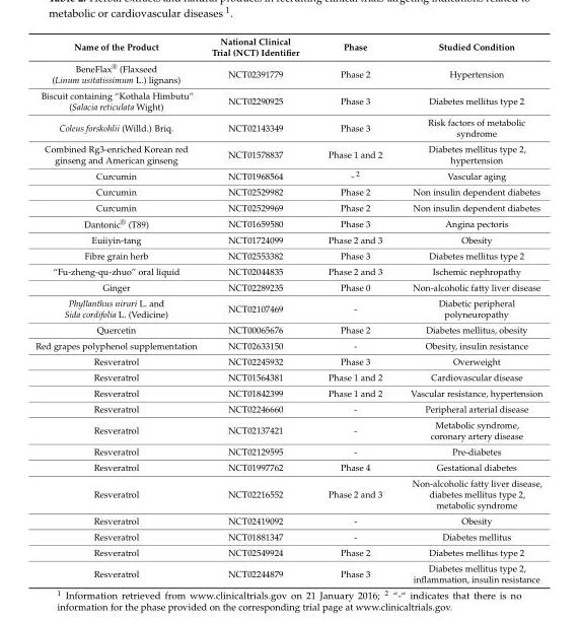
<table><thead><tr><td>Name of the Product</td><td>National Clinical Trial (NCT) Identifier</td><td>Phase</td><td>Studied Condition</td></tr></thead><tbody><tr><td>BeneFlax<sup>®</sup> (Flaxseed (Linum usitatissimum L.) lignans)</td><td>NCT02391779</td><td>Phase 2</td><td>Hypertension</td></tr><tr><td>Biscuit containing “Kothala Himbutu” (Salacia reticulata Wight)</td><td>NCT02290925</td><td>Phase 3</td><td>Diabetes mellitus type 2</td></tr><tr><td>Coleus forskohlii (Willd.) Briq.</td><td>NCT02143349</td><td>Phase 3</td><td>Risk factors of metabolic syndrome</td></tr><tr><td>Combined Rg3-enriched Korean red ginseng and American ginseng</td><td>NCT01578837</td><td>Phase 1 and 2</td><td>Diabetes mellitus type 2, hypertension</td></tr><tr><td>Curcumin</td><td>NCT01968564</td><td>- <sup>2</sup></td><td>Vascular aging</td></tr><tr><td>Curcumin</td><td>NCT02529982</td><td>Phase 2</td><td>Non insulin dependent diabetes</td></tr><tr><td>Curcumin</td><td>NCT02529969</td><td>Phase 2</td><td>Non insulin dependent diabetes</td></tr><tr><td>Dantonic<sup>®</sup> (T89)</td><td>NCT01659580</td><td>Phase 3</td><td>Angina pectoris</td></tr><tr><td>Euiiyin-tang</td><td>NCT01724099</td><td>Phase 2 and 3</td><td>Obesity</td></tr><tr><td>Fibre grain herb</td><td>NCT02553382</td><td>Phase 3</td><td>Diabetes mellitus type 2</td></tr><tr><td>“Fu-zheng-qu-zhuo” oral liquid</td><td>NCT02044835</td><td>Phase 2 and 3</td><td>Ischemic nephropathy</td></tr><tr><td>Ginger</td><td>NCT02289235</td><td>Phase 0</td><td>Non-alcoholic fatty liver disease</td></tr><tr><td>Phyllanthus niruri L. and Sida cordifolia L. (Vedicine)</td><td>NCT02107469</td><td>-</td><td>Diabetic peripheral polyneuropathy</td></tr><tr><td>Quercetin</td><td>NCT00065676</td><td>Phase 2</td><td>Diabetes mellitus, obesity</td></tr><tr><td>Red grapes polyphenol supplementation</td><td>NCT02633150</td><td>-</td><td>Obesity, insulin resistance</td></tr><tr><td>Resveratrol</td><td>NCT02245932</td><td>Phase 3</td><td>Overweight</td></tr><tr><td>Resveratrol</td><td>NCT01564381</td><td>Phase 1 and 2</td><td>Cardiovascular disease</td></tr><tr><td>Resveratrol</td><td>NCT01842399</td><td>Phase 1 and 2</td><td>Vascular resistance, hypertension</td></tr><tr><td>Resveratrol</td><td>NCT02246660</td><td>-</td><td>Peripheral arterial disease</td></tr><tr><td>Resveratrol</td><td>NCT02137421</td><td>-</td><td>Metabolic syndrome, coronary artery disease</td></tr><tr><td>Resveratrol</td><td>NCT02129595</td><td>-</td><td>Pre-diabetes</td></tr><tr><td>Resveratrol</td><td>NCT01997762</td><td>Phase 4</td><td>Gestational diabetes</td></tr><tr><td>Resveratrol</td><td>NCT02216552</td><td>Phase 2 and 3</td><td>Non-alcoholic fatty liver disease, diabetes mellitus type 2, metabolic syndrome</td></tr><tr><td>Resveratrol</td><td>NCT02419092</td><td>-</td><td>Obesity</td></tr><tr><td>Resveratrol</td><td>NCT01881347</td><td>-</td><td>Diabetes mellitus</td></tr><tr><td>Resveratrol</td><td>NCT02549924</td><td>Phase 2</td><td>Diabetes mellitus type 2</td></tr><tr><td>Resveratrol</td><td>NCT02244879</td><td>Phase 3</td><td>Diabetes mellitus type 2, inflammation, insulin resistance</td></tr></tbody></table>